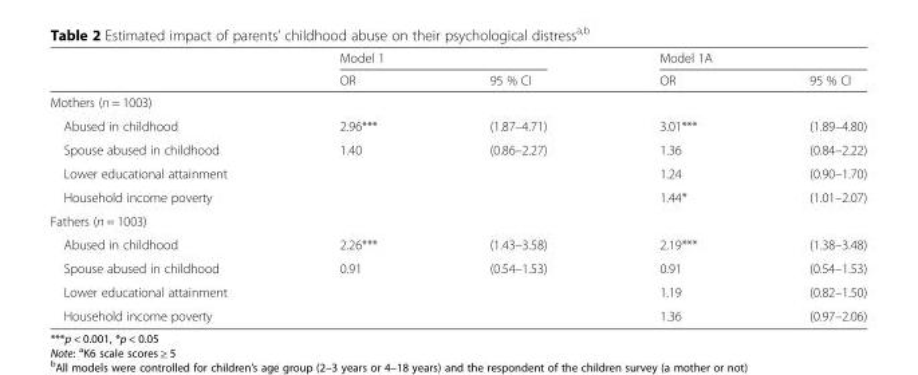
<table><thead><tr><td rowspan="2"></td><td colspan="2">Model 1</td><td colspan="2">Model 1A</td></tr><tr><td>OR</td><td>95 % CI</td><td>OR</td><td>95 % CI</td></tr></thead><tbody><tr><td colspan="5">Mothers (n = 1003)</td></tr><tr><td>Abused in childhood</td><td>2.96***</td><td>(1.87–4.71)</td><td>3.01***</td><td>(1.89–4.80)</td></tr><tr><td>Spouse abused in childhood</td><td>1.40</td><td>(0.86–2.27)</td><td>1.36</td><td>(0.84–2.22)</td></tr><tr><td>Lower educational attainment</td><td></td><td></td><td>1.24</td><td>(0.90–1.70)</td></tr><tr><td>Household income poverty</td><td></td><td></td><td>1.44*</td><td>(1.01–2.07)</td></tr><tr><td colspan="5">Fathers (n = 1003)</td></tr><tr><td>Abused in childhood</td><td>2.26***</td><td>(1.43–3.58)</td><td>2.19***</td><td>(1.38–3.48)</td></tr><tr><td>Spouse abused in childhood</td><td>0.91</td><td>(0.54–1.53)</td><td>0.91</td><td>(0.54–1.53)</td></tr><tr><td>Lower educational attainment</td><td></td><td></td><td>1.19</td><td>(0.82–1.50)</td></tr><tr><td>Household income poverty</td><td></td><td></td><td>1.36</td><td>(0.97–2.06)</td></tr></tbody></table>